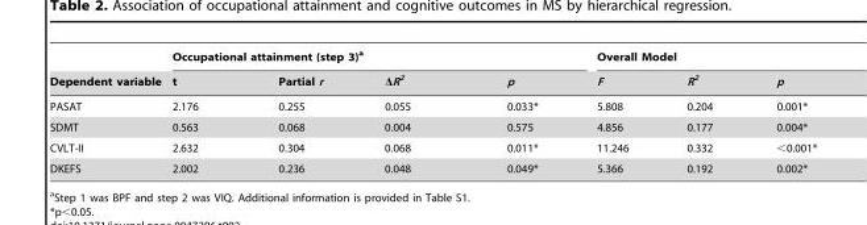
<table><thead><tr><td rowspan="2">Dependent variable</td><td colspan="4">Occupational attainment (step 3)<sup>a</sup></td><td colspan="3">Overall Model</td></tr><tr><td>t</td><td>Partial r</td><td>ΔR<sup>2</sup></td><td>p</td><td>F</td><td>R<sup>2</sup></td><td>p</td></tr></thead><tbody><tr><td>PASAT</td><td>2.176</td><td>0.255</td><td>0.055</td><td>0.033*</td><td>5.808</td><td>0.204</td><td>0.001*</td></tr><tr><td>SDMT</td><td>0.563</td><td>0.068</td><td>0.004</td><td>0.575</td><td>4.856</td><td>0.177</td><td>0.004*</td></tr><tr><td>CVLT-II</td><td>2.632</td><td>0.304</td><td>0.068</td><td>0.011*</td><td>11.246</td><td>0.332</td><td>&lt;0.001*</td></tr><tr><td>DKEFS</td><td>2.002</td><td>0.236</td><td>0.048</td><td>0.049*</td><td>5.366</td><td>0.192</td><td>0.002*</td></tr></tbody></table>